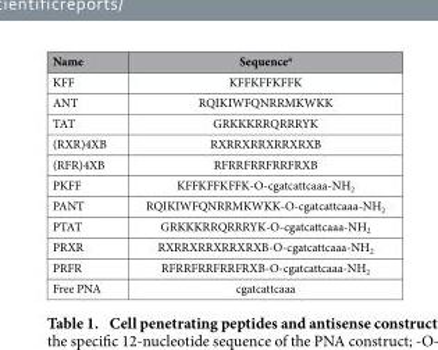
<table><thead><tr><td>Name</td><td>Sequence<sup>a</sup></td></tr></thead><tbody><tr><td>KFF</td><td>KFFKFFKFFK</td></tr><tr><td>ANT</td><td>RQIKIWFQNRRMKWKK</td></tr><tr><td>TAT</td><td>GRKKKRRQRRRYK</td></tr><tr><td>(RXR)4XB</td><td>RXRRXRRXRRXRXB</td></tr><tr><td>(RFR)4XB</td><td>RFRRFRRFRRFRXB</td></tr><tr><td>PKFF</td><td>KFFKFFKFFK-O-cgatcattcaaa-NH<sub>2</sub></td></tr><tr><td>PANT</td><td>RQIKIWFQNRRMKWKK-O-cgatcattcaaa-NH<sub>2</sub></td></tr><tr><td>PTAT</td><td>GRKKKRRQRRRYK-O-cgatcattcaaa-NH<sub>2</sub></td></tr><tr><td>PRXR</td><td>RXRRXRRXRRXRXB-O-cgatcattcaaa-NH<sub>2</sub></td></tr><tr><td>PRFR</td><td>RFRRFRRFRRFRXB-O-cgatcattcaaa-NH<sub>2</sub></td></tr><tr><td>Free PNA</td><td>cgatcattcaaa</td></tr></tbody></table>